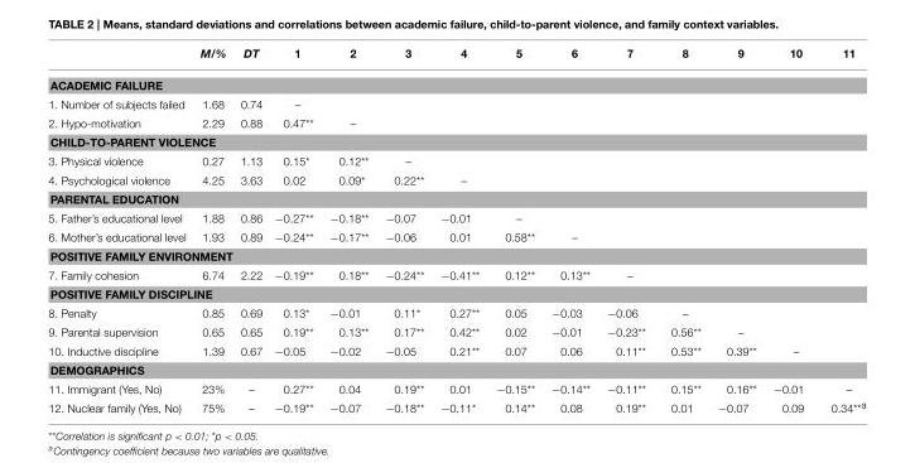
<table><thead><tr><td></td><td>M/%</td><td>DT</td><td>1</td><td>2</td><td>3</td><td>4</td><td>5</td><td>6</td><td>7</td><td>8</td><td>9</td><td>10</td><td>11</td></tr></thead><tbody><tr><td colspan="14">ACADEMIC FAILURE</td></tr><tr><td>1. Number of subjects failed</td><td>1.68</td><td>0.74</td><td>–</td><td></td><td></td><td></td><td></td><td></td><td></td><td></td><td></td><td></td><td></td></tr><tr><td>2. Hypo-motivation</td><td>2.29</td><td>0.88</td><td>0.47**</td><td>–</td><td></td><td></td><td></td><td></td><td></td><td></td><td></td><td></td><td></td></tr><tr><td colspan="14">CHILD-TO-PARENT VIOLENCE</td></tr><tr><td>3. Physical violence</td><td>0.27</td><td>1.13</td><td>0.15*</td><td>0.12**</td><td>–</td><td></td><td></td><td></td><td></td><td></td><td></td><td></td><td></td></tr><tr><td>4. Psychological violence</td><td>4.25</td><td>3.63</td><td>0.02</td><td>0.09*</td><td>0.22**</td><td>–</td><td></td><td></td><td></td><td></td><td></td><td></td><td></td></tr><tr><td colspan="14">PARENTAL EDUCATION</td></tr><tr><td>5. Father’s educational level</td><td>1.88</td><td>0.86</td><td>−0.27**</td><td>−0.18**</td><td>−0.07</td><td>−0.01</td><td>–</td><td></td><td></td><td></td><td></td><td></td><td></td></tr><tr><td>6. Mother’s educational level</td><td>1.93</td><td>0.89</td><td>−0.24**</td><td>−0.17**</td><td>−0.06</td><td>0.01</td><td>0.58**</td><td>–</td><td></td><td></td><td></td><td></td><td></td></tr><tr><td colspan="14">POSITIVE FAMILY ENVIRONMENT</td></tr><tr><td>7. Family cohesion</td><td>6.74</td><td>2.22</td><td>−0.19**</td><td>0.18**</td><td>−0.24**</td><td>−0.41**</td><td>0.12**</td><td>0.13**</td><td>–</td><td></td><td></td><td></td><td></td></tr><tr><td colspan="14">POSITIVE FAMILY DISCIPLINE</td></tr><tr><td>8. Penalty</td><td>0.85</td><td>0.69</td><td>0.13*</td><td>−0.01</td><td>0.11*</td><td>0.27**</td><td>0.05</td><td>−0.03</td><td>−0.06</td><td>–</td><td></td><td></td><td></td></tr><tr><td>9. Parental supervision</td><td>0.65</td><td>0.65</td><td>0.19**</td><td>0.13**</td><td>0.17**</td><td>0.42**</td><td>0.02</td><td>−0.01</td><td>−0.23**</td><td>0.56**</td><td>–</td><td></td><td></td></tr><tr><td>10. Inductive discipline</td><td>1.39</td><td>0.67</td><td>−0.05</td><td>−0.02</td><td>−0.05</td><td>0.21**</td><td>0.07</td><td>0.06</td><td>0.11**</td><td>0.53**</td><td>0.39**</td><td>–</td><td></td></tr><tr><td colspan="14">DEMOGRAPHICS</td></tr><tr><td>11. Immigrant (Yes, No)</td><td>23%</td><td>–</td><td>0.27**</td><td>0.04</td><td>0.19**</td><td>0.01</td><td>−0.15**</td><td>−0.14**</td><td>−0.11**</td><td>0.15**</td><td>0.16**</td><td>−0.01</td><td>–</td></tr><tr><td>12. Nuclear family (Yes, No)</td><td>75%</td><td>–</td><td>−0.19**</td><td>−0.07</td><td>−0.18**</td><td>−0.11*</td><td>0.14**</td><td>0.08</td><td>0.19**</td><td>0.01</td><td>−0.07</td><td>0.09</td><td>0.34<sup>**a</sup></td></tr></tbody></table>